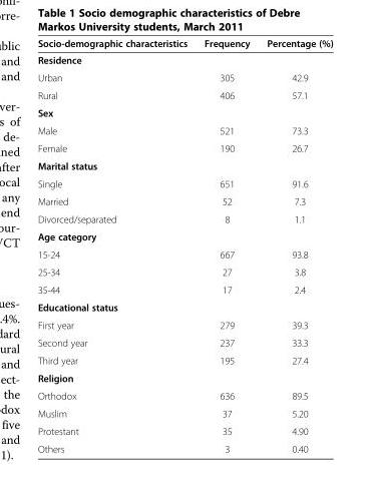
<table><thead><tr><td>Socio-demographic characteristics</td><td>Frequency</td><td>Percentage (%)</td></tr></thead><tbody><tr><td colspan="3">Residence</td></tr><tr><td>Urban</td><td>305</td><td>42.9</td></tr><tr><td>Rural</td><td>406</td><td>57.1</td></tr><tr><td colspan="3">Sex</td></tr><tr><td>Male</td><td>521</td><td>73.3</td></tr><tr><td>Female</td><td>190</td><td>26.7</td></tr><tr><td colspan="3">Marital status</td></tr><tr><td>Single</td><td>651</td><td>91.6</td></tr><tr><td>Married</td><td>52</td><td>7.3</td></tr><tr><td>Divorced/separated</td><td>8</td><td>1.1</td></tr><tr><td colspan="3">Age category</td></tr><tr><td>15-24</td><td>667</td><td>93.8</td></tr><tr><td>25-34</td><td>27</td><td>3.8</td></tr><tr><td>35-44</td><td>17</td><td>2.4</td></tr><tr><td colspan="3">Educational status</td></tr><tr><td>First year</td><td>279</td><td>39.3</td></tr><tr><td>Second year</td><td>237</td><td>33.3</td></tr><tr><td>Third year</td><td>195</td><td>27.4</td></tr><tr><td colspan="3">Religion</td></tr><tr><td>Orthodox</td><td>636</td><td>89.5</td></tr><tr><td>Muslim</td><td>37</td><td>5.20</td></tr><tr><td>Protestant</td><td>35</td><td>4.90</td></tr><tr><td>Others</td><td>3</td><td>0.40</td></tr></tbody></table>